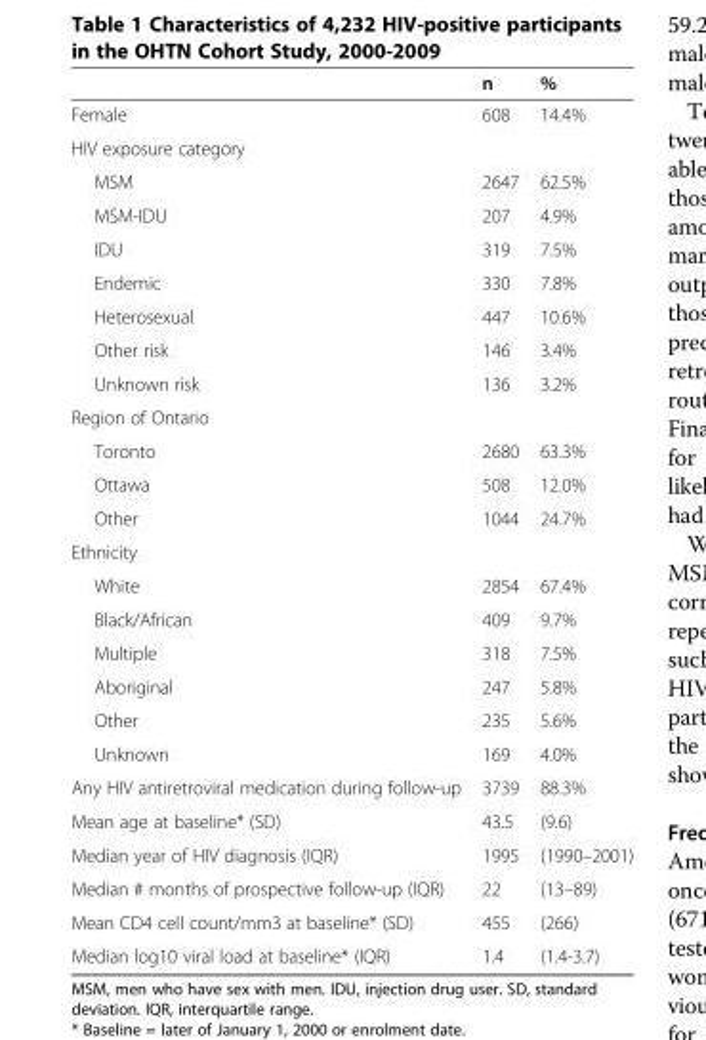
<table><thead><tr><td></td><td>n</td><td>%</td></tr></thead><tbody><tr><td>Female</td><td>608</td><td>14.4%</td></tr><tr><td colspan="3">HIV exposure category</td></tr><tr><td>MSM</td><td>2647</td><td>62.5%</td></tr><tr><td>MSM-IDU</td><td>207</td><td>4.9%</td></tr><tr><td>IDU</td><td>319</td><td>7.5%</td></tr><tr><td>Endemic</td><td>330</td><td>7.8%</td></tr><tr><td>Heterosexual</td><td>447</td><td>10.6%</td></tr><tr><td>Other risk</td><td>146</td><td>3.4%</td></tr><tr><td>Unknown risk</td><td>136</td><td>3.2%</td></tr><tr><td colspan="3">Region of Ontario</td></tr><tr><td>Toronto</td><td>2680</td><td>63.3%</td></tr><tr><td>Ottawa</td><td>508</td><td>12.0%</td></tr><tr><td>Other</td><td>1044</td><td>24.7%</td></tr><tr><td colspan="3">Ethnicity</td></tr><tr><td>White</td><td>2854</td><td>67.4%</td></tr><tr><td>Black/African</td><td>409</td><td>9.7%</td></tr><tr><td>Multiple</td><td>318</td><td>7.5%</td></tr><tr><td>Aboriginal</td><td>247</td><td>5.8%</td></tr><tr><td>Other</td><td>235</td><td>5.6%</td></tr><tr><td>Unknown</td><td>169</td><td>4.0%</td></tr><tr><td>Any HIV antiretroviral medication during follow-up</td><td>3739</td><td>88.3%</td></tr><tr><td>Mean age at baseline* (SD)</td><td>43.5</td><td>(9.6)</td></tr><tr><td>Median year of HIV diagnosis (IQR)</td><td>1995</td><td>(1990–2001)</td></tr><tr><td>Median # months of prospective follow-up (IQR)</td><td>22</td><td>(13–89)</td></tr><tr><td>Mean CD4 cell count/mm3 at baseline* (SD)</td><td>455</td><td>(266)</td></tr><tr><td>Median log10 viral load at baseline* (IQR)</td><td>1.4</td><td>(1.4-3.7)</td></tr></tbody></table>